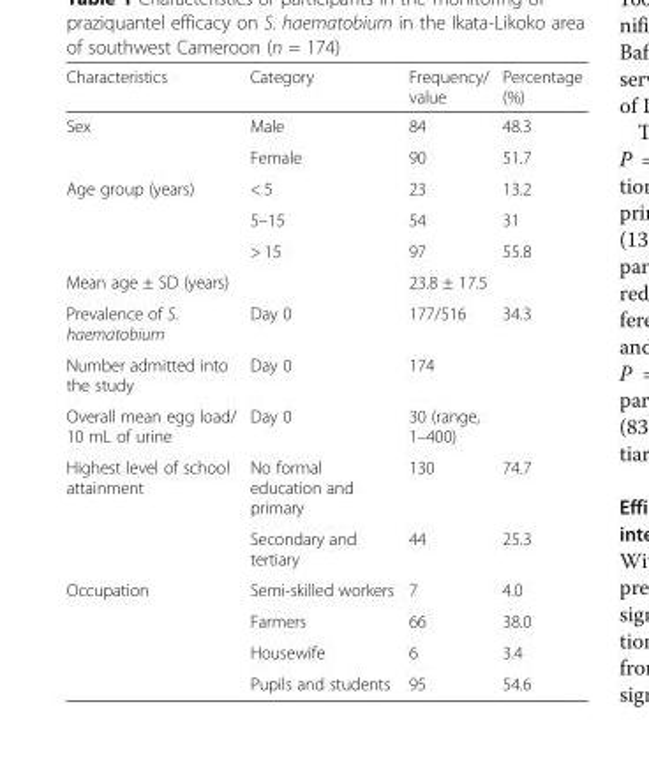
<table><thead><tr><td>Characteristics</td><td>Category</td><td>Frequency/ value</td><td>Percentage (%)</td></tr></thead><tbody><tr><td rowspan="2">Sex</td><td>Male</td><td>84</td><td>48.3</td></tr><tr><td>Female</td><td>90</td><td>51.7</td></tr><tr><td rowspan="3">Age group (years)</td><td>&lt; 5</td><td>23</td><td>13.2</td></tr><tr><td>5–15</td><td>54</td><td>31</td></tr><tr><td>&gt; 15</td><td>97</td><td>55.8</td></tr><tr><td>Mean age ± SD (years)</td><td></td><td>23.8 ± 17.5</td><td></td></tr><tr><td>Prevalence of S. haematobium</td><td>Day 0</td><td>177/516</td><td>34.3</td></tr><tr><td>Number admitted into the study</td><td>Day 0</td><td>174</td><td></td></tr><tr><td>Overall mean egg load/ 10 mL of urine</td><td>Day 0</td><td>30 (range, 1–400)</td><td></td></tr><tr><td rowspan="2">Highest level of school attainment</td><td>No formal education and primary</td><td>130</td><td>74.7</td></tr><tr><td>Secondary and tertiary</td><td>44</td><td>25.3</td></tr><tr><td rowspan="4">Occupation</td><td>Semi-skilled workers</td><td>7</td><td>4.0</td></tr><tr><td>Farmers</td><td>66</td><td>38.0</td></tr><tr><td>Housewife</td><td>6</td><td>3.4</td></tr><tr><td>Pupils and students</td><td>95</td><td>54.6</td></tr></tbody></table>